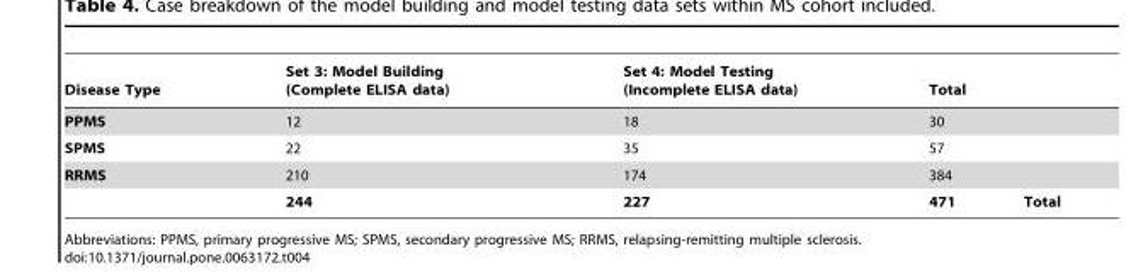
<table><thead><tr><td>Disease Type</td><td>Set 3: Model Building (Complete ELISA data)</td><td>Set 4: Model Testing (Incomplete ELISA data)</td><td>Total</td><td></td></tr></thead><tbody><tr><td>PPMS</td><td>12</td><td>18</td><td>30</td><td></td></tr><tr><td>SPMS</td><td>22</td><td>35</td><td>57</td><td></td></tr><tr><td rowspan="2">RRMS</td><td>210</td><td>174</td><td>384</td><td></td></tr><tr><td>244</td><td>227</td><td>471</td><td>Total</td></tr></tbody></table>